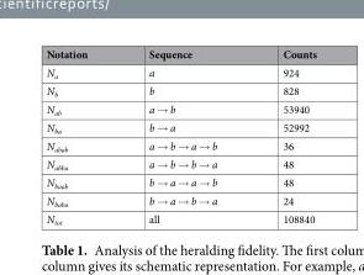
<table><thead><tr><td>Notation</td><td>Sequence</td><td>Counts</td></tr></thead><tbody><tr><td>N<sub>a</sub></td><td>a</td><td>924</td></tr><tr><td>N<sub>b</sub></td><td>b</td><td>828</td></tr><tr><td>N<sub>ab</sub></td><td>a → b</td><td>53940</td></tr><tr><td>N<sub>ba</sub></td><td>b → a</td><td>52992</td></tr><tr><td>N<sub>abab</sub></td><td>a → b → a → b</td><td>36</td></tr><tr><td>N<sub>abba</sub></td><td>a → b → b → a</td><td>48</td></tr><tr><td>N<sub>baab</sub></td><td>b → a → a → b</td><td>48</td></tr><tr><td>N<sub>baba</sub></td><td>b → a → b → a</td><td>24</td></tr><tr><td>N<sub>tot</sub></td><td>all</td><td>108840</td></tr></tbody></table>